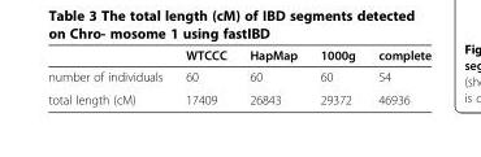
<table><thead><tr><td></td><td>WTCCC</td><td>HapMap</td><td>1000g</td><td>complete</td></tr></thead><tbody><tr><td>number of individuals</td><td>60</td><td>60</td><td>60</td><td>54</td></tr><tr><td>total length (cM)</td><td>17409</td><td>26843</td><td>29372</td><td>46936</td></tr></tbody></table>